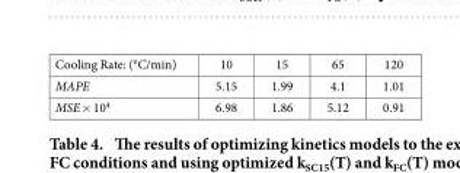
<table><tbody><tr><td>Cooling Rate: (°C/min)</td><td>10</td><td>15</td><td>65</td><td>120</td></tr><tr><td>MAPE</td><td>5.15</td><td>1.99</td><td>4.1</td><td>1.01</td></tr><tr><td>MSE × 10<sup>4</sup></td><td>6.98</td><td>1.86</td><td>5.12</td><td>0.91</td></tr></tbody></table>